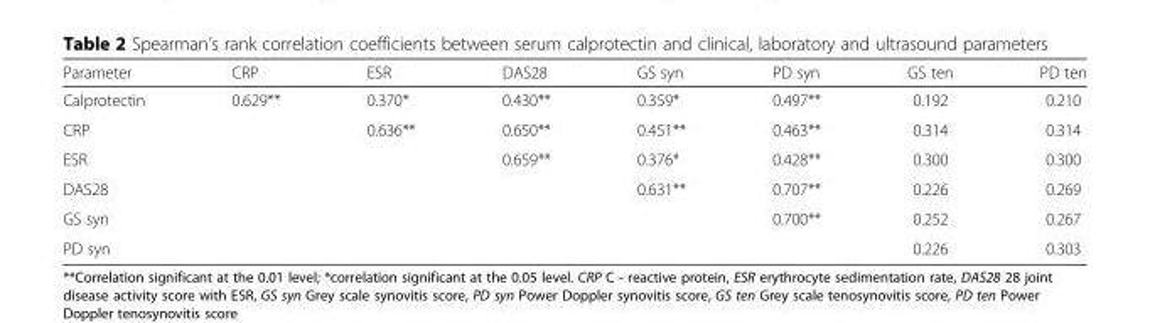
<table><thead><tr><td>Parameter</td><td>CRP</td><td>ESR</td><td>DAS28</td><td>GS syn</td><td>PD syn</td><td>GS ten</td><td>PD ten</td></tr></thead><tbody><tr><td>Calprotectin</td><td>0.629**</td><td>0.370*</td><td>0.430**</td><td>0.359*</td><td>0.497**</td><td>0.192</td><td>0.210</td></tr><tr><td>CRP</td><td></td><td>0.636**</td><td>0.650**</td><td>0.451**</td><td>0.463**</td><td>0.314</td><td>0.314</td></tr><tr><td>ESR</td><td></td><td></td><td>0.659**</td><td>0.376*</td><td>0.428**</td><td>0.300</td><td>0.300</td></tr><tr><td>DAS28</td><td></td><td></td><td></td><td>0.631**</td><td>0.707**</td><td>0.226</td><td>0.269</td></tr><tr><td>GS syn</td><td></td><td></td><td></td><td></td><td>0.700**</td><td>0.252</td><td>0.267</td></tr><tr><td>PD syn</td><td></td><td></td><td></td><td></td><td></td><td>0.226</td><td>0.303</td></tr></tbody></table>